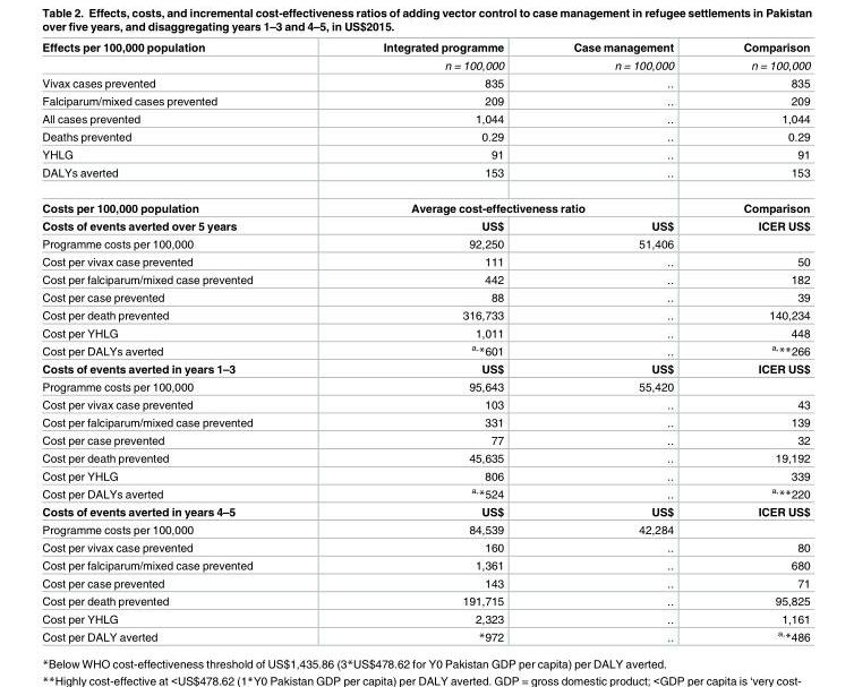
<table><tbody><tr><td rowspan="2">Effects per 100,000 population</td><td>Integrated programme</td><td>Case management</td><td>Comparison</td></tr><tr><td>n = 100,000</td><td>n = 100,000</td><td>n = 100,000</td></tr><tr><td>Vivax cases prevented</td><td>835</td><td>..</td><td>835</td></tr><tr><td>Falciparum/mixed cases prevented</td><td>209</td><td>..</td><td>209</td></tr><tr><td>All cases prevented</td><td>1,044</td><td>..</td><td>1,044</td></tr><tr><td>Deaths prevented</td><td>0.29</td><td>..</td><td>0.29</td></tr><tr><td>YHLG</td><td>91</td><td>..</td><td>91</td></tr><tr><td>DALYs averted</td><td>153</td><td>..</td><td>153</td></tr><tr><td>Costs per 100,000 population</td><td colspan="2">Average cost-effectiveness ratio</td><td>Comparison</td></tr><tr><td>Costs of events averted over 5 years</td><td>US$</td><td>US$</td><td>ICER US$</td></tr><tr><td>Programme costs per 100,000</td><td>92,250</td><td>51,406</td><td></td></tr><tr><td>Cost per vivax case prevented</td><td>111</td><td>..</td><td>50</td></tr><tr><td>Cost per falciparum/mixed case prevented</td><td>442</td><td>..</td><td>182</td></tr><tr><td>Cost per case prevented</td><td>88</td><td>..</td><td>39</td></tr><tr><td>Cost per death prevented</td><td>316,733</td><td>..</td><td>140,234</td></tr><tr><td>Cost per YHLG</td><td>1,011</td><td>..</td><td>448</td></tr><tr><td>Cost per DALYs averted</td><td><sup>a,</sup>*601</td><td>..</td><td><sup>a,</sup>**266</td></tr><tr><td>Costs of events averted in years 1–3</td><td>US$</td><td>US$</td><td>ICER US$</td></tr><tr><td>Programme costs per 100,000</td><td>95,643</td><td>55,420</td><td></td></tr><tr><td>Cost per vivax case prevented</td><td>103</td><td>..</td><td>43</td></tr><tr><td>Cost per falciparum/mixed case prevented</td><td>331</td><td>..</td><td>139</td></tr><tr><td>Cost per case prevented</td><td>77</td><td>..</td><td>32</td></tr><tr><td>Cost per death prevented</td><td>45,635</td><td>..</td><td>19,192</td></tr><tr><td>Cost per YHLG</td><td>806</td><td>..</td><td>339</td></tr><tr><td>Cost per DALYs averted</td><td><sup>a,</sup>*524</td><td>..</td><td><sup>a,</sup>**220</td></tr><tr><td>Costs of events averted in years 4–5</td><td>US$</td><td>US$</td><td>ICER US$</td></tr><tr><td>Programme costs per 100,000</td><td>84,539</td><td>42,284</td><td></td></tr><tr><td>Cost per vivax case prevented</td><td>160</td><td>..</td><td>80</td></tr><tr><td>Cost per falciparum/mixed case prevented</td><td>1,361</td><td>..</td><td>680</td></tr><tr><td>Cost per case prevented</td><td>143</td><td>..</td><td>71</td></tr><tr><td>Cost per death prevented</td><td>191,715</td><td>..</td><td>95,825</td></tr><tr><td>Cost per YHLG</td><td>2,323</td><td>..</td><td>1,161</td></tr><tr><td>Cost per DALY averted</td><td>*972</td><td>..</td><td><sup>a,</sup>*486</td></tr></tbody></table>